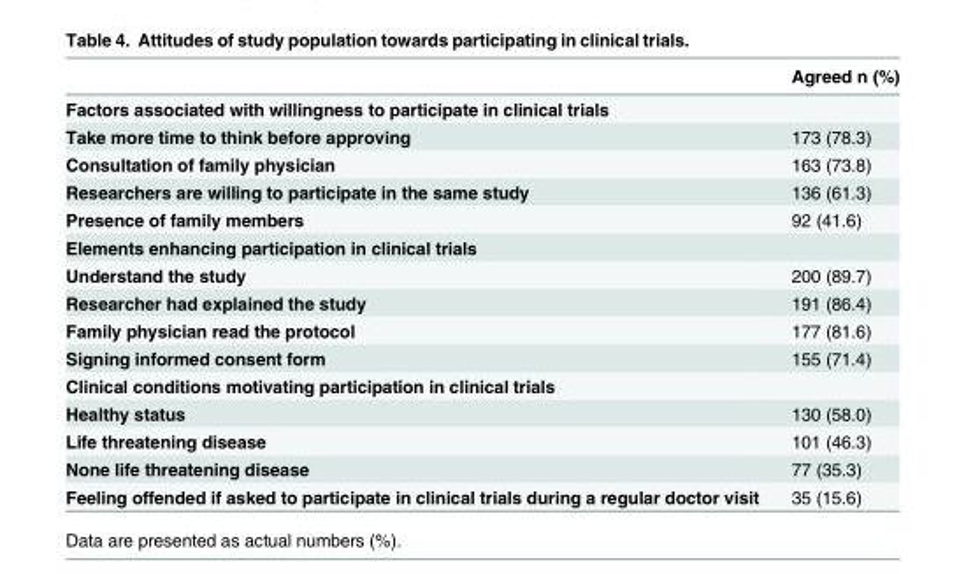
<table><thead><tr><td></td><td>Agreed n (%)</td></tr></thead><tbody><tr><td colspan="2">Factors associated with willingness to participate in clinical trials</td></tr><tr><td>Take more time to think before approving</td><td>173 (78.3)</td></tr><tr><td>Consultation of family physician</td><td>163 (73.8)</td></tr><tr><td>Researchers are willing to participate in the same study</td><td>136 (61.3)</td></tr><tr><td>Presence of family members</td><td>92 (41.6)</td></tr><tr><td colspan="2">Elements enhancing participation in clinical trials</td></tr><tr><td>Understand the study</td><td>200 (89.7)</td></tr><tr><td>Researcher had explained the study</td><td>191 (86.4)</td></tr><tr><td>Family physician read the protocol</td><td>177 (81.6)</td></tr><tr><td>Signing informed consent form</td><td>155 (71.4)</td></tr><tr><td colspan="2">Clinical conditions motivating participation in clinical trials</td></tr><tr><td>Healthy status</td><td>130 (58.0)</td></tr><tr><td>Life threatening disease</td><td>101 (46.3)</td></tr><tr><td>None life threatening disease</td><td>77 (35.3)</td></tr><tr><td>Feeling offended if asked to participate in clinical trials during a regular doctor visit</td><td>35 (15.6)</td></tr></tbody></table>